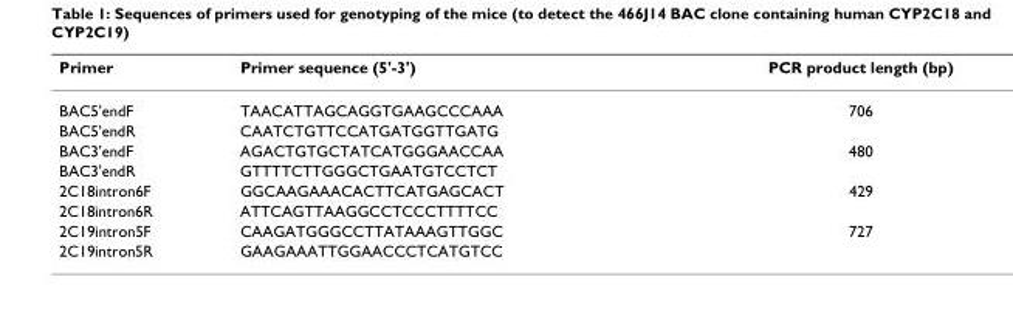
<table><thead><tr><td>Primer</td><td>Primer sequence (5&#x27;-3&#x27;)</td><td>PCR product length (bp)</td></tr></thead><tbody><tr><td>BAC5&#x27;endF</td><td>TAACATTAGCAGGTGAAGCCCAAA</td><td>706</td></tr><tr><td>BAC5&#x27;endR</td><td>CAATCTGTTCCATGATGGTTGATG</td><td></td></tr><tr><td>BAC3&#x27;endF</td><td>AGACTGTGCTATCATGGGAACCAA</td><td>480</td></tr><tr><td>BAC3&#x27;endR</td><td>GTTTTCTTGGGCTGAATGTCCTCT</td><td></td></tr><tr><td>2C18intron6F</td><td>GGCAAGAAACACTTCATGAGCACT</td><td>429</td></tr><tr><td>2C18intron6R</td><td>ATTCAGTTAAGGCCTCCCTTTTCC</td><td></td></tr><tr><td>2C19intron5F</td><td>CAAGATGGGCCTTATAAAGTTGGC</td><td>727</td></tr><tr><td>2C19intron5R</td><td>GAAGAAATTGGAACCCTCATGTCC</td><td></td></tr></tbody></table>